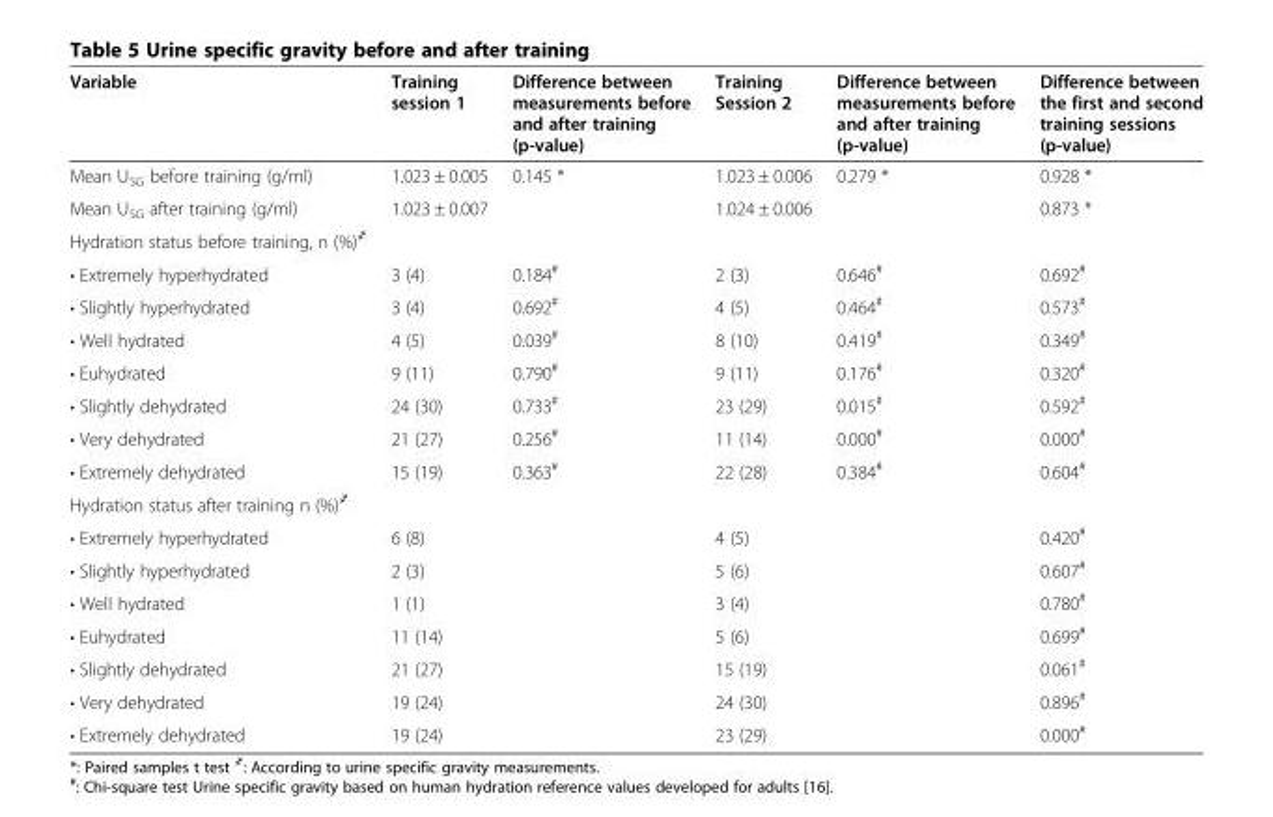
<table><thead><tr><td>Variable</td><td>Training session 1</td><td>Difference between measurements before and after training (p-value)</td><td>Training Session 2</td><td>Difference between measurements before and after training (p-value)</td><td>Difference between the first and second training sessions (p-value)</td></tr></thead><tbody><tr><td>Mean U<sub>SG</sub> before training (g/ml)</td><td>1.023 ± 0.005</td><td rowspan="2">0.145 *</td><td>1.023 ± 0.006</td><td rowspan="2">0.279 *</td><td>0.928 *</td></tr><tr><td>Mean U<sub>SG</sub> after training (g/ml)</td><td>1.023 ± 0.007</td><td>1.024 ± 0.006</td><td>0.873 *</td></tr><tr><td colspan="6">Hydration status before training, n (%)<sup>҂</sup></td></tr><tr><td>• Extremely hyperhydrated</td><td>3 (4)</td><td>0.184<sup>#</sup></td><td>2 (3)</td><td>0.646<sup>#</sup></td><td>0.692<sup>#</sup></td></tr><tr><td>• Slightly hyperhydrated</td><td>3 (4)</td><td>0.692<sup>#</sup></td><td>4 (5)</td><td>0.464<sup>#</sup></td><td>0.573<sup>#</sup></td></tr><tr><td>• Well hydrated</td><td>4 (5)</td><td>0.039<sup>#</sup></td><td>8 (10)</td><td>0.419<sup>#</sup></td><td>0.349<sup>#</sup></td></tr><tr><td>• Euhydrated</td><td>9 (11)</td><td>0.790<sup>#</sup></td><td>9 (11)</td><td>0.176<sup>#</sup></td><td>0.320<sup>#</sup></td></tr><tr><td>• Slightly dehydrated</td><td>24 (30)</td><td>0.733<sup>#</sup></td><td>23 (29)</td><td>0.015<sup>#</sup></td><td>0.592<sup>#</sup></td></tr><tr><td>• Very dehydrated</td><td>21 (27)</td><td>0.256<sup>#</sup></td><td>11 (14)</td><td>0.000<sup>#</sup></td><td>0.000<sup>#</sup></td></tr><tr><td>• Extremely dehydrated</td><td>15 (19)</td><td>0.363<sup>#</sup></td><td>22 (28)</td><td>0.384<sup>#</sup></td><td>0.604<sup>#</sup></td></tr><tr><td colspan="6">Hydration status after training n (%)<sup>҂</sup></td></tr><tr><td>• Extremely hyperhydrated</td><td>6 (8)</td><td></td><td>4 (5)</td><td></td><td>0.420<sup>#</sup></td></tr><tr><td>• Slightly hyperhydrated</td><td>2 (3)</td><td></td><td>5 (6)</td><td></td><td>0.607<sup>#</sup></td></tr><tr><td>• Well hydrated</td><td>1 (1)</td><td></td><td>3 (4)</td><td></td><td>0.780<sup>#</sup></td></tr><tr><td>• Euhydrated</td><td>11 (14)</td><td></td><td>5 (6)</td><td></td><td>0.699<sup>#</sup></td></tr><tr><td>• Slightly dehydrated</td><td>21 (27)</td><td></td><td>15 (19)</td><td></td><td>0.061<sup>#</sup></td></tr><tr><td>• Very dehydrated</td><td>19 (24)</td><td></td><td>24 (30)</td><td></td><td>0.896<sup>#</sup></td></tr><tr><td>• Extremely dehydrated</td><td>19 (24)</td><td></td><td>23 (29)</td><td></td><td>0.000<sup>#</sup></td></tr></tbody></table>